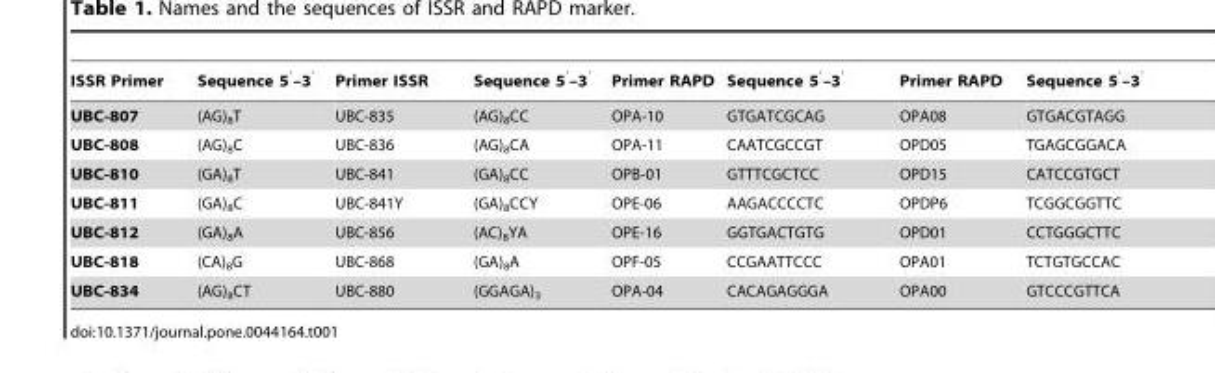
<table><thead><tr><td>ISSR Primer</td><td>Sequence 5<sup>′</sup>–3<sup>′</sup></td><td>Primer ISSR</td><td>Sequence 5<sup>′</sup>–3<sup>′</sup></td><td>Primer RAPD</td><td>Sequence 5<sup>′</sup>–3<sup>′</sup></td><td>Primer RAPD</td><td>Sequence 5<sup>′</sup>–3<sup>′</sup></td></tr></thead><tbody><tr><td>UBC-807</td><td>(AG)<sub>8</sub>T</td><td>UBC-835</td><td>(AG)<sub>8</sub>CC</td><td>OPA-10</td><td>GTGATCGCAG</td><td>OPA08</td><td>GTGACGTAGG</td></tr><tr><td>UBC-808</td><td>(AG)<sub>8</sub>C</td><td>UBC-836</td><td>(AG)<sub>8</sub>CA</td><td>OPA-11</td><td>CAATCGCCGT</td><td>OPD05</td><td>TGAGCGGACA</td></tr><tr><td>UBC-810</td><td>(GA)<sub>8</sub>T</td><td>UBC-841</td><td>(GA)<sub>8</sub>CC</td><td>OPB-01</td><td>GTTTCGCTCC</td><td>OPD15</td><td>CATCCGTGCT</td></tr><tr><td>UBC-811</td><td>(GA)<sub>8</sub>C</td><td>UBC-841Y</td><td>(GA)<sub>8</sub>CCY</td><td>OPE-06</td><td>AAGACCCCTC</td><td>OPDP6</td><td>TCGGCGGTTC</td></tr><tr><td>UBC-812</td><td>(GA)<sub>8</sub>A</td><td>UBC-856</td><td>(AC)<sub>8</sub>YA</td><td>OPE-16</td><td>GGTGACTGTG</td><td>OPD01</td><td>CCTGGGCTTC</td></tr><tr><td>UBC-818</td><td>(CA)<sub>8</sub>G</td><td>UBC-868</td><td>(GA)<sub>8</sub>A</td><td>OPF-05</td><td>CCGAATTCCC</td><td>OPA01</td><td>TCTGTGCCAC</td></tr><tr><td>UBC-834</td><td>(AG)<sub>8</sub>CT</td><td>UBC-880</td><td>(GGAGA)<sub>3</sub></td><td>OPA-04</td><td>CACAGAGGGA</td><td>OPA00</td><td>GTCCCGTTCA</td></tr></tbody></table>